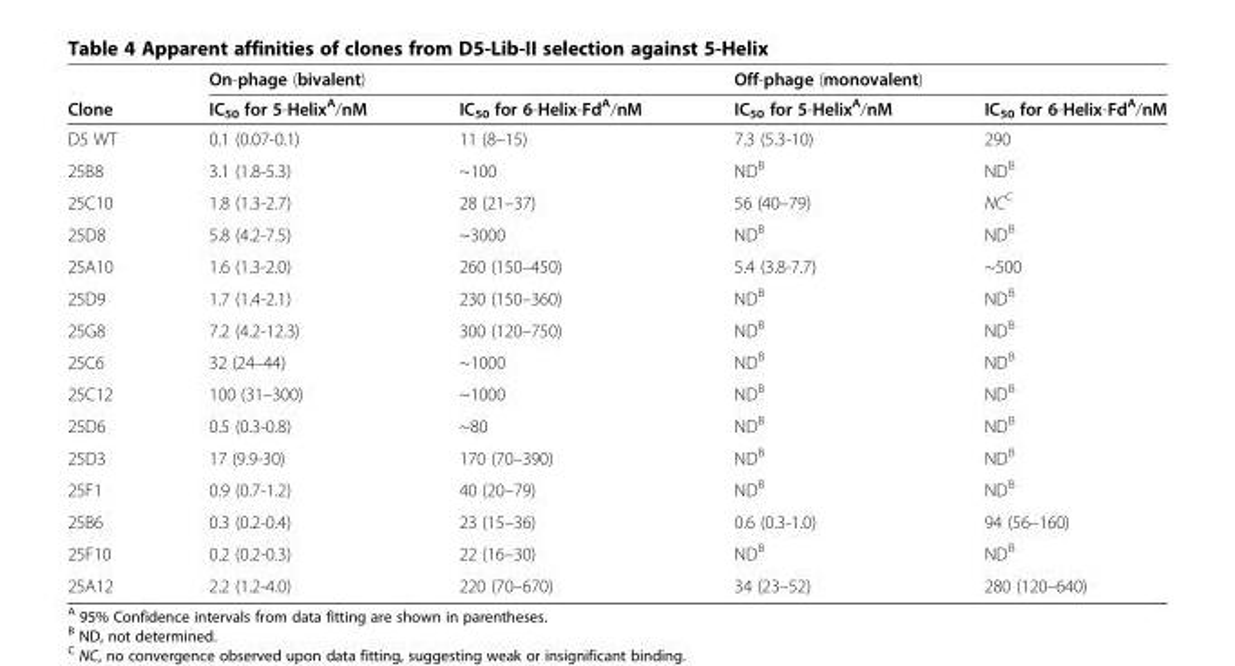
<table><thead><tr><td rowspan="2">Clone</td><td colspan="2">On-phage (bivalent)</td><td colspan="2">Off-phage (monovalent)</td></tr><tr><td>IC<sub>50</sub> for 5-Helix<sup>A</sup>/nM</td><td>IC<sub>50</sub> for 6-Helix-Fd<sup>A</sup>/nM</td><td>IC<sub>50</sub> for 5-Helix<sup>A</sup>/nM</td><td>IC<sub>50</sub> for 6-Helix-Fd<sup>A</sup>/nM</td></tr></thead><tbody><tr><td>D5 WT</td><td>0.1 (0.07-0.1)</td><td>11 (8–15)</td><td>7.3 (5.3-10)</td><td>290</td></tr><tr><td>25B8</td><td>3.1 (1.8-5.3)</td><td>~100</td><td>ND<sup>B</sup></td><td>ND<sup>B</sup></td></tr><tr><td>25C10</td><td>1.8 (1.3-2.7)</td><td>28 (21–37)</td><td>56 (40–79)</td><td>NC<sup>C</sup></td></tr><tr><td>25D8</td><td>5.8 (4.2-7.5)</td><td>~3000</td><td>ND<sup>B</sup></td><td>ND<sup>B</sup></td></tr><tr><td>25A10</td><td>1.6 (1.3-2.0)</td><td>260 (150–450)</td><td>5.4 (3.8-7.7)</td><td>~500</td></tr><tr><td>25D9</td><td>1.7 (1.4-2.1)</td><td>230 (150–360)</td><td>ND<sup>B</sup></td><td>ND<sup>B</sup></td></tr><tr><td>25G8</td><td>7.2 (4.2-12.3)</td><td>300 (120–750)</td><td>ND<sup>B</sup></td><td>ND<sup>B</sup></td></tr><tr><td>25C6</td><td>32 (24–44)</td><td>~1000</td><td>ND<sup>B</sup></td><td>ND<sup>B</sup></td></tr><tr><td>25C12</td><td>100 (31–300)</td><td>~1000</td><td>ND<sup>B</sup></td><td>ND<sup>B</sup></td></tr><tr><td>25D6</td><td>0.5 (0.3-0.8)</td><td>~80</td><td>ND<sup>B</sup></td><td>ND<sup>B</sup></td></tr><tr><td>25D3</td><td>17 (9.9-30)</td><td>170 (70–390)</td><td>ND<sup>B</sup></td><td>ND<sup>B</sup></td></tr><tr><td>25F1</td><td>0.9 (0.7-1.2)</td><td>40 (20–79)</td><td>ND<sup>B</sup></td><td>ND<sup>B</sup></td></tr><tr><td>25B6</td><td>0.3 (0.2-0.4)</td><td>23 (15–36)</td><td>0.6 (0.3-1.0)</td><td>94 (56–160)</td></tr><tr><td>25F10</td><td>0.2 (0.2-0.3)</td><td>22 (16–30)</td><td>ND<sup>B</sup></td><td>ND<sup>B</sup></td></tr><tr><td>25A12</td><td>2.2 (1.2-4.0)</td><td>220 (70–670)</td><td>34 (23–52)</td><td>280 (120–640)</td></tr></tbody></table>